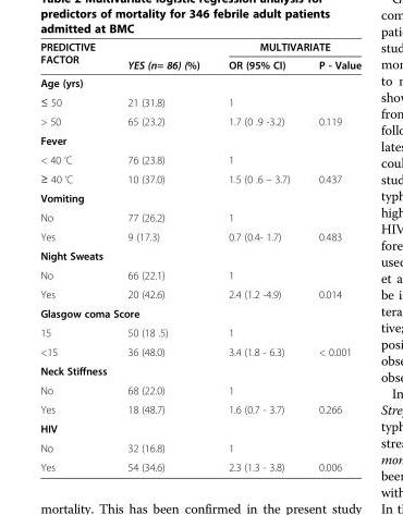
<table><thead><tr><td rowspan="2">PREDICTIVE FACTOR</td><td rowspan="2">YES (n= 86) (%)</td><td colspan="2">MULTIVARIATE</td></tr><tr><td>OR (95% CI)</td><td>P - Value</td></tr></thead><tbody><tr><td colspan="4">Age (yrs)</td></tr><tr><td>≤ 50</td><td>21 (31.8)</td><td>1</td><td></td></tr><tr><td>&gt; 50</td><td>65 (23.2)</td><td>1.7 (0 .9 -3.2)</td><td>0.119</td></tr><tr><td colspan="4">Fever</td></tr><tr><td>&lt; 40 ‘C</td><td>76 (23.8)</td><td>1</td><td></td></tr><tr><td>≥ 40 ‘C</td><td>10 (37.0)</td><td>1.5 (0 .6 – 3.7)</td><td>0.437</td></tr><tr><td colspan="4">Vomiting</td></tr><tr><td>No</td><td>77 (26.2)</td><td>1</td><td></td></tr><tr><td>Yes</td><td>9 (17.3)</td><td>0.7 (0.4- 1.7)</td><td>0.483</td></tr><tr><td colspan="4">Night Sweats</td></tr><tr><td>No</td><td>66 (22.1)</td><td>1</td><td></td></tr><tr><td>Yes</td><td>20 (42.6)</td><td>2.4 (1.2 -4.9)</td><td>0.014</td></tr><tr><td colspan="4">Glasgow coma Score</td></tr><tr><td>15</td><td>50 (18 .5)</td><td>1</td><td></td></tr><tr><td>&lt;15</td><td>36 (48.0)</td><td>3.4 (1.8 - 6.3)</td><td>&lt; 0.001</td></tr><tr><td colspan="4">Neck Stiffness</td></tr><tr><td>No</td><td>68 (22.0)</td><td>1</td><td></td></tr><tr><td>Yes</td><td>18 (48.7)</td><td>1.6 (0.7 - 3.7)</td><td>0.266</td></tr><tr><td colspan="4">HIV</td></tr><tr><td>No</td><td>32 (16.8)</td><td>1</td><td></td></tr><tr><td>Yes</td><td>54 (34.6)</td><td>2.3 (1.3 - 3.8)</td><td>0.006</td></tr></tbody></table>